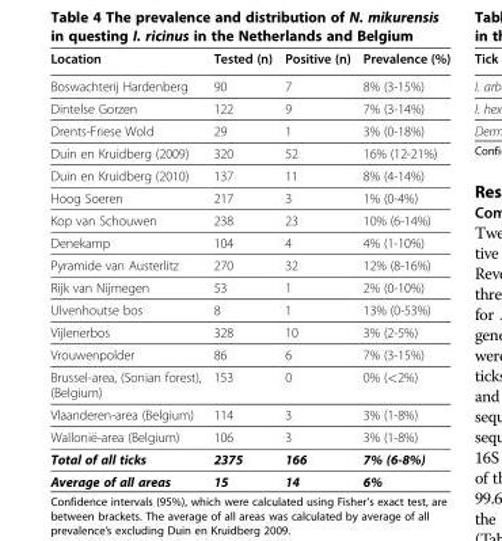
<table><thead><tr><td>Location</td><td>Tested (n)</td><td>Positive (n)</td><td>Prevalence (%)</td></tr></thead><tbody><tr><td>Boswachterij Hardenberg</td><td>90</td><td>7</td><td>8% (3-15%)</td></tr><tr><td>Dintelse Gorzen</td><td>122</td><td>9</td><td>7% (3-14%)</td></tr><tr><td>Drents-Friese Wold</td><td>29</td><td>1</td><td>3% (0-18%)</td></tr><tr><td>Duin en Kruidberg (2009)</td><td>320</td><td>52</td><td>16% (12-21%)</td></tr><tr><td>Duin en Kruidberg (2010)</td><td>137</td><td>11</td><td>8% (4-14%)</td></tr><tr><td>Hoog Soeren</td><td>217</td><td>3</td><td>1% (0-4%)</td></tr><tr><td>Kop van Schouwen</td><td>238</td><td>23</td><td>10% (6-14%)</td></tr><tr><td>Denekamp</td><td>104</td><td>4</td><td>4% (1-10%)</td></tr><tr><td>Pyramide van Austerlitz</td><td>270</td><td>32</td><td>12% (8-16%)</td></tr><tr><td>Rijk van Nijmegen</td><td>53</td><td>1</td><td>2% (0-10%)</td></tr><tr><td>Ulvenhoutse bos</td><td>8</td><td>1</td><td>13% (0-53%)</td></tr><tr><td>Vijlenerbos</td><td>328</td><td>10</td><td>3% (2-5%)</td></tr><tr><td>Vrouwenpolder</td><td>86</td><td>6</td><td>7% (3-15%)</td></tr><tr><td>Brussel-area, (Sonian forest), (Belgium)</td><td>153</td><td>0</td><td>0% (&lt;2%)</td></tr><tr><td>Vlaanderen-area (Belgium)</td><td>114</td><td>3</td><td>3% (1-8%)</td></tr><tr><td>Wallonië-area (Belgium)</td><td>106</td><td>3</td><td>3% (1-8%)</td></tr><tr><td>Total of all ticks</td><td>2375</td><td>166</td><td>7% (6-8%)</td></tr><tr><td>Average of all areas</td><td>15</td><td>14</td><td>6%</td></tr></tbody></table>